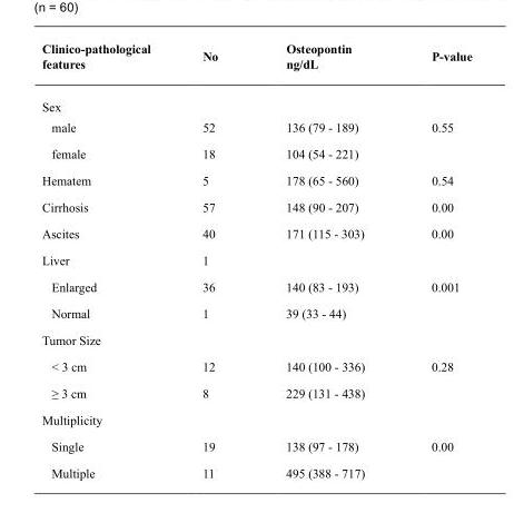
<table><thead><tr><td>Clinico-pathological features</td><td>No</td><td>Osteopontin ng/dL</td><td>P-value</td></tr></thead><tbody><tr><td colspan="4">Sex</td></tr><tr><td>male</td><td>52</td><td>136 (79 - 189)</td><td>0.55</td></tr><tr><td>female</td><td>18</td><td>104 (54 - 221)</td><td></td></tr><tr><td>Hematem</td><td>5</td><td>178 (65 - 560)</td><td>0.54</td></tr><tr><td>Cirrhosis</td><td>57</td><td>148 (90 - 207)</td><td>0.00</td></tr><tr><td>Ascites</td><td>40</td><td>171 (115 - 303)</td><td>0.00</td></tr><tr><td>Liver</td><td>1</td><td></td><td></td></tr><tr><td>Enlarged</td><td>36</td><td>140 (83 - 193)</td><td>0.001</td></tr><tr><td>Normal</td><td>1</td><td>39 (33 - 44)</td><td></td></tr><tr><td colspan="4">Tumor Size</td></tr><tr><td>&lt; 3 cm</td><td>12</td><td>140 (100 - 336)</td><td>0.28</td></tr><tr><td>≥ 3 cm</td><td>8</td><td>229 (131 - 438)</td><td></td></tr><tr><td colspan="4">Multiplicity</td></tr><tr><td>Single</td><td>19</td><td>138 (97 - 178)</td><td>0.00</td></tr><tr><td>Multiple</td><td>11</td><td>495 (388 - 717)</td><td></td></tr></tbody></table>